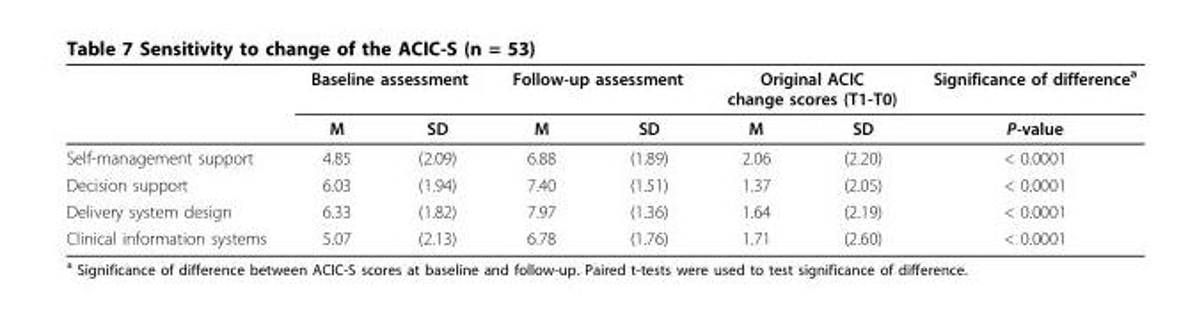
<table><thead><tr><td rowspan="2"></td><td colspan="2">Baseline assessment</td><td colspan="2">Follow-up assessment</td><td colspan="2">Original ACIC change scores (T1-T0)</td><td rowspan="2">Significance of difference<sup>a</sup> P-value</td></tr><tr><td>M</td><td>SD</td><td>M</td><td>SD</td><td>M</td><td>SD</td></tr></thead><tbody><tr><td>Self-management support</td><td>4.85</td><td>(2.09)</td><td>6.88</td><td>(1.89)</td><td>2.06</td><td>(2.20)</td><td>&lt; 0.0001</td></tr><tr><td>Decision support</td><td>6.03</td><td>(1.94)</td><td>7.40</td><td>(1.51)</td><td>1.37</td><td>(2.05)</td><td>&lt; 0.0001</td></tr><tr><td>Delivery system design</td><td>6.33</td><td>(1.82)</td><td>7.97</td><td>(1.36)</td><td>1.64</td><td>(2.19)</td><td>&lt; 0.0001</td></tr><tr><td>Clinical information systems</td><td>5.07</td><td>(2.13)</td><td>6.78</td><td>(1.76)</td><td>1.71</td><td>(2.60)</td><td>&lt; 0.0001</td></tr></tbody></table>